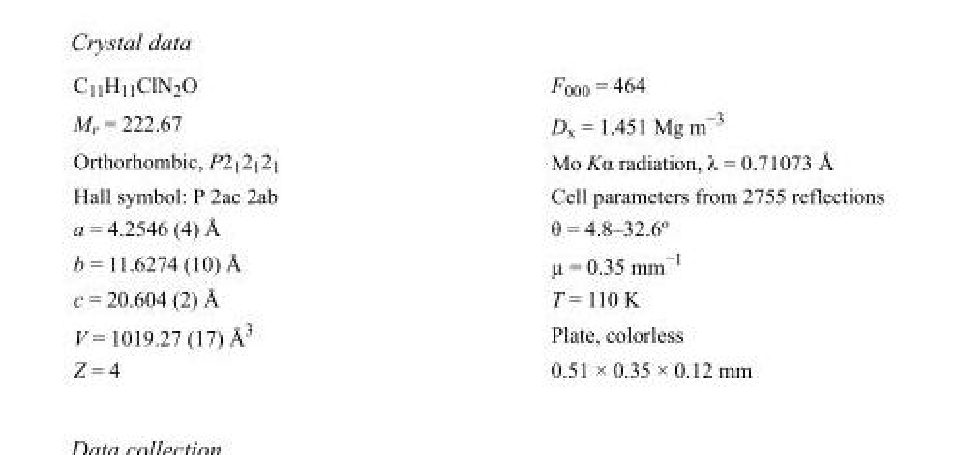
<table><tbody><tr><td>C<sub>11</sub>H<sub>11</sub>ClN<sub>2</sub>O</td><td>F000 = 464</td></tr><tr><td>M<sub>r</sub> = 222.67</td><td>D<sub>x</sub> = 1.451 Mg m<sup>−3</sup></td></tr><tr><td>Orthorhombic, P2<sub>1</sub>2<sub>1</sub>2<sub>1</sub></td><td>Mo Kα radiation, λ = 0.71073 Å</td></tr><tr><td>Hall symbol: P 2ac 2ab</td><td>Cell parameters from 2755 reflections</td></tr><tr><td>a = 4.2546 (4) Å</td><td>θ = 4.8–32.6º</td></tr><tr><td>b = 11.6274 (10) Å</td><td>µ = 0.35 mm<sup>−1</sup></td></tr><tr><td>c = 20.604 (2) Å</td><td>T = 110 K</td></tr><tr><td>V = 1019.27 (17) Å<sup>3</sup></td><td>Plate, colorless</td></tr><tr><td>Z = 4</td><td>0.51 × 0.35 × 0.12 mm</td></tr></tbody></table>